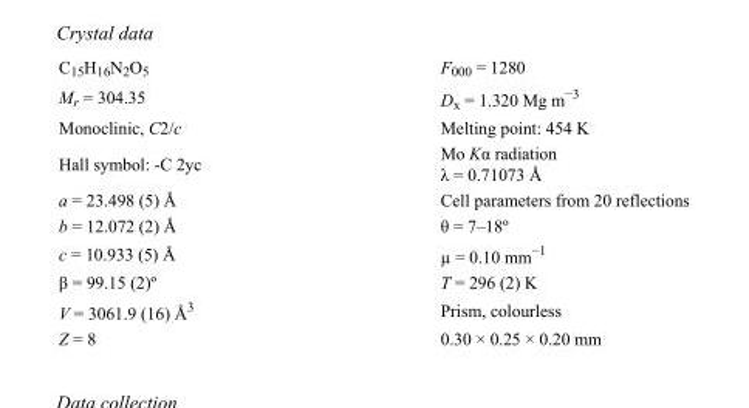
<table><tbody><tr><td>C<sub>15</sub>H<sub>16</sub>N<sub>2</sub>O<sub>5</sub></td><td>F<sub>000</sub> = 1280</td></tr><tr><td>M<sub>r</sub> = 304.35</td><td>D<sub>x</sub> = 1.320 Mg m<sup>−3</sup></td></tr><tr><td>Monoclinic, C2/c</td><td>Melting point: 454 K</td></tr><tr><td>Hall symbol: -C 2yc</td><td>Mo Kα radiation λ = 0.71073 Å</td></tr><tr><td>a = 23.498 (5) Å</td><td>Cell parameters from 20 reflections</td></tr><tr><td>b = 12.072 (2) Å</td><td>θ = 7–18º</td></tr><tr><td>c = 10.933 (5) Å</td><td>µ = 0.10 mm<sup>−1</sup></td></tr><tr><td>β = 99.15 (2)º</td><td>T = 296 (2) K</td></tr><tr><td>V = 3061.9 (16) Å<sup>3</sup></td><td>Prism, colourless</td></tr><tr><td>Z = 8</td><td>0.30 × 0.25 × 0.20 mm</td></tr></tbody></table>